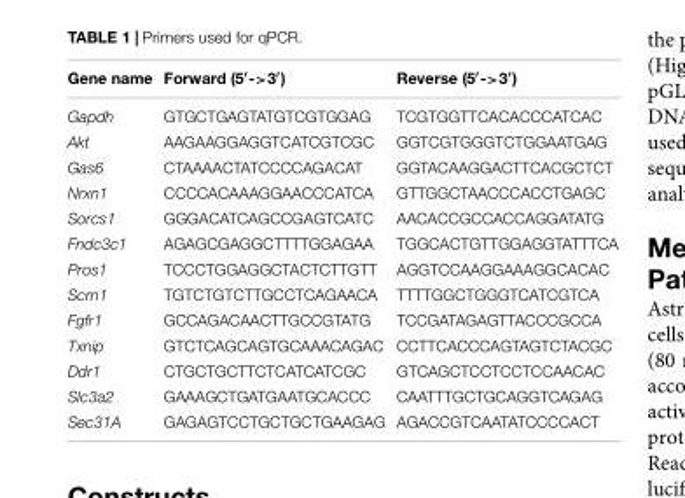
<table><thead><tr><td>Gene name</td><td>Forward (5′-&gt;3′)</td><td>Reverse (5′-&gt;3′)</td></tr></thead><tbody><tr><td>Gapdh</td><td>GTGCTGAGTATGTCGTGGAG</td><td>TCGTGGTTCACACCCATCAC</td></tr><tr><td>Akt</td><td>AAGAAGGAGGTCATCGTCGC</td><td>GGTCGTGGGTCTGGAATGAG</td></tr><tr><td>Gas6</td><td>CTAAAACTATCCCCAGACAT</td><td>GGTACAAGGACTTCACGCTCT</td></tr><tr><td>Nrxn1</td><td>CCCCACAAAGGAACCCATCA</td><td>GTTGGCTAACCCACCTGAGC</td></tr><tr><td>Sorcs1</td><td>GGGACATCAGCCGAGTCATC</td><td>AACACCGCCACCAGGATATG</td></tr><tr><td>Fndc3c1</td><td>AGAGCGAGGCTTTTGGAGAA</td><td>TGGCACTGTTGGAGGTATTTCA</td></tr><tr><td>Pros1</td><td>TCCCTGGAGGCTACTCTTGTT</td><td>AGGTCCAAGGAAAGGCACAC</td></tr><tr><td>Scrn1</td><td>TGTCTGTCTTGCCTCAGAACA</td><td>TTTTGGCTGGGTCATCGTCA</td></tr><tr><td>Fgfr1</td><td>GCCAGACAACTTGCCGTATG</td><td>TCCGATAGAGTTACCCGCCA</td></tr><tr><td>Txnip</td><td>GTCTCAGCAGTGCAAACAGAC</td><td>CCTTCACCCAGTAGTCTACGC</td></tr><tr><td>Ddr1</td><td>CTGCTGCTTCTCATCATCGC</td><td>GTCAGCTCCTCCTCCAACAC</td></tr><tr><td>Slc3a2</td><td>GAAAGCTGATGAATGCACCC</td><td>CAATTTGCTGCAGGTCAGAG</td></tr><tr><td>Sec31A</td><td>GAGAGTCCTGCTGCTGAAGAG</td><td>AGACCGTCAATATCCCCACT</td></tr></tbody></table>